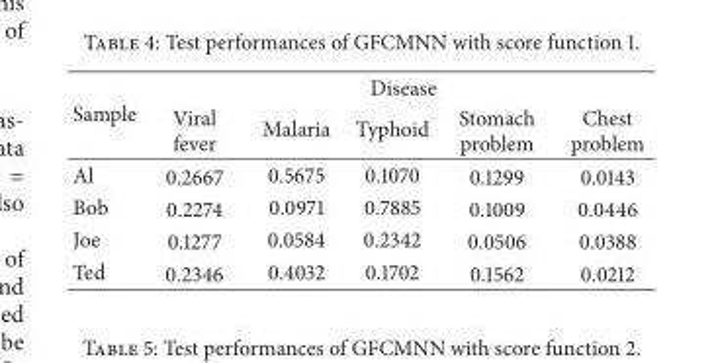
<table><thead><tr><td rowspan="2">Sample</td><td colspan="5">Disease</td></tr><tr><td>Viral fever</td><td>Malaria</td><td>Typhoid</td><td>Stomach problem</td><td>Chest problem</td></tr></thead><tbody><tr><td>Al</td><td>0.2667</td><td>0.5675</td><td>0.1070</td><td>0.1299</td><td>0.0143</td></tr><tr><td>Bob</td><td>0.2274</td><td>0.0971</td><td>0.7885</td><td>0.1009</td><td>0.0446</td></tr><tr><td>Joe</td><td>0.1277</td><td>0.0584</td><td>0.2342</td><td>0.0506</td><td>0.0388</td></tr><tr><td>Ted</td><td>0.2346</td><td>0.4032</td><td>0.1702</td><td>0.1562</td><td>0.0212</td></tr></tbody></table>